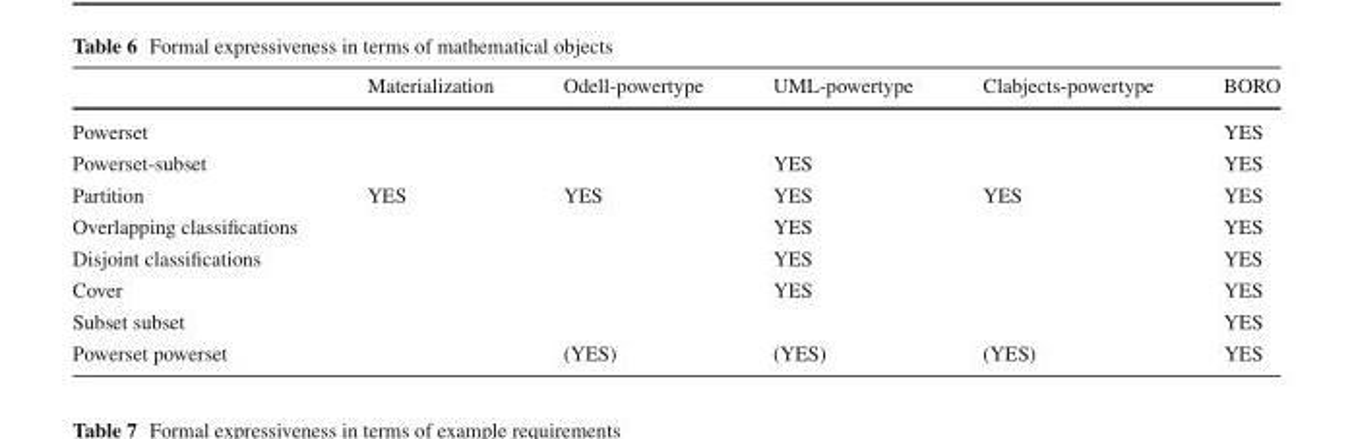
<table><thead><tr><td></td><td>Materialization</td><td>Odell-powertype</td><td>UML-powertype</td><td>Clabjects-powertype</td><td>BORO</td></tr></thead><tbody><tr><td>Powerset</td><td></td><td></td><td></td><td></td><td>YES</td></tr><tr><td>Powerset-subset</td><td></td><td></td><td>YES</td><td></td><td>YES</td></tr><tr><td>Partition</td><td>YES</td><td>YES</td><td>YES</td><td>YES</td><td>YES</td></tr><tr><td>Overlapping classifications</td><td></td><td></td><td>YES</td><td></td><td>YES</td></tr><tr><td>Disjoint classifications</td><td></td><td></td><td>YES</td><td></td><td>YES</td></tr><tr><td>Cover</td><td></td><td></td><td>YES</td><td></td><td>YES</td></tr><tr><td>Subset subset</td><td></td><td></td><td></td><td></td><td>YES</td></tr><tr><td>Powerset powerset</td><td></td><td>(YES)</td><td>(YES)</td><td>(YES)</td><td>YES</td></tr></tbody></table>